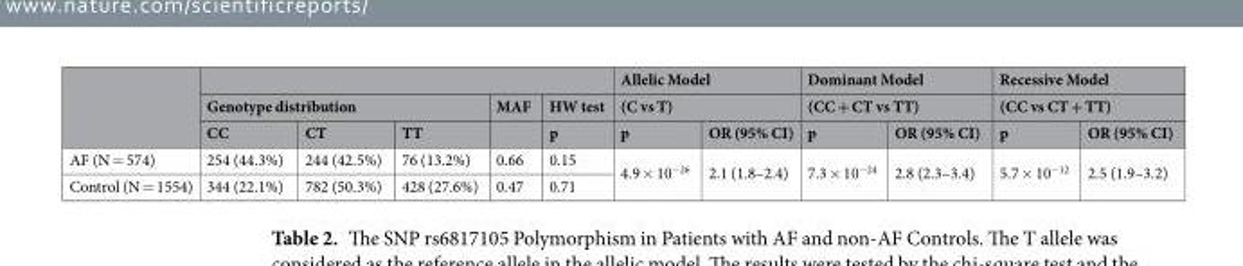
<table><thead><tr><td rowspan="3"></td><td></td><td></td><td></td><td rowspan="3">MAF</td><td rowspan="3">HW test p</td><td rowspan="2" colspan="2">Allelic Model (C vs T)</td><td rowspan="2" colspan="2">Dominant Model (CC + CT vs TT)</td><td rowspan="2" colspan="2">Recessive Model (CC vs CT + TT)</td></tr><tr><td colspan="3">Genotype distribution</td></tr><tr><td>CC</td><td>CT</td><td>TT</td><td>p</td><td>OR (95% CI)</td><td>p</td><td>OR (95% CI)</td><td>p</td><td>OR (95% CI)</td></tr></thead><tbody><tr><td>AF (N = 574)</td><td>254 (44.3%)</td><td>244 (42.5%)</td><td>76 (13.2%)</td><td>0.66</td><td>0.15</td><td rowspan="2">4.9 × 10<sup>−26</sup></td><td rowspan="2">2.1 (1.8–2.4)</td><td rowspan="2">7.3 × 10<sup>−24</sup></td><td rowspan="2">2.8 (2.3–3.4)</td><td rowspan="2">5.7 × 10<sup>−12</sup></td><td rowspan="2">2.5 (1.9–3.2)</td></tr><tr><td>Control (N = 1554)</td><td>344 (22.1%)</td><td>782 (50.3%)</td><td>428 (27.6%)</td><td>0.47</td><td>0.71</td></tr></tbody></table>